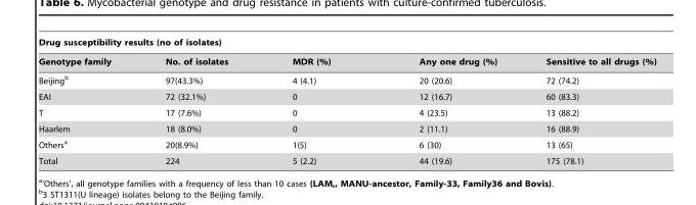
<table><thead><tr><td colspan="5">Drug susceptibility results (no of isolates)</td></tr><tr><td>Genotype family</td><td>No. of isolates</td><td>MDR (%)</td><td>Any one drug (%)</td><td>Sensitive to all drugs (%)</td></tr></thead><tbody><tr><td>Beijing<sup>b</sup></td><td>97(43.3%)</td><td>4 (4.1)</td><td>20 (20.6)</td><td>72 (74.2)</td></tr><tr><td>EAI</td><td>72 (32.1%)</td><td>0</td><td>12 (16.7)</td><td>60 (83.3)</td></tr><tr><td>T</td><td>17 (7.6%)</td><td>0</td><td>4 (23.5)</td><td>13 (88.2)</td></tr><tr><td>Haarlem</td><td>18 (8.0%)</td><td>0</td><td>2 (11.1)</td><td>16 (88.9)</td></tr><tr><td>Others<sup>a</sup></td><td>20(8.9%)</td><td>1(5)</td><td>6 (30)</td><td>13 (65)</td></tr><tr><td>Total</td><td>224</td><td>5 (2.2)</td><td>44 (19.6)</td><td>175 (78.1)</td></tr></tbody></table>